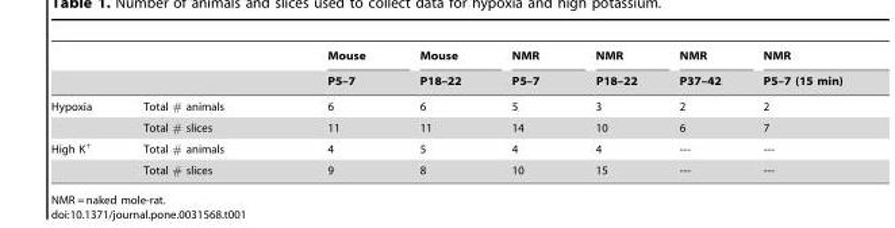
<table><thead><tr><td rowspan="2"></td><td rowspan="2"></td><td rowspan="2">Mouse P5–7</td><td rowspan="2">Mouse P18–22</td><td rowspan="2">NMR P5–7</td><td rowspan="2">NMR P18–22</td><td rowspan="2">NMR P37–42</td><td rowspan="2">NMR P5–7 (15 min)</td></tr><tr></tr></thead><tbody><tr><td rowspan="2">Hypoxia</td><td>Total # animals</td><td>6</td><td>6</td><td>5</td><td>3</td><td>2</td><td>2</td></tr><tr><td>Total # slices</td><td>11</td><td>11</td><td>14</td><td>10</td><td>6</td><td>7</td></tr><tr><td rowspan="2">High K<sup>+</sup></td><td>Total # animals</td><td>4</td><td>5</td><td>4</td><td>4</td><td>---</td><td>---</td></tr><tr><td>Total # slices</td><td>9</td><td>8</td><td>10</td><td>15</td><td>---</td><td>---</td></tr></tbody></table>